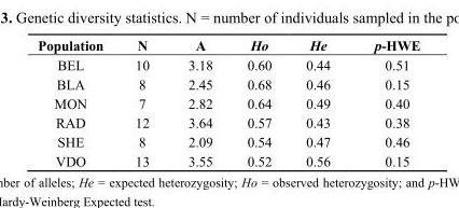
<table><thead><tr><td>Population</td><td>N</td><td>A</td><td>Ho</td><td>He</td><td>p-HWE</td></tr></thead><tbody><tr><td>BEL</td><td>10</td><td>3.18</td><td>0.60</td><td>0.44</td><td>0.51</td></tr><tr><td>BLA</td><td>8</td><td>2.45</td><td>0.68</td><td>0.46</td><td>0.15</td></tr><tr><td>MON</td><td>7</td><td>2.82</td><td>0.64</td><td>0.49</td><td>0.40</td></tr><tr><td>RAD</td><td>12</td><td>3.64</td><td>0.57</td><td>0.43</td><td>0.38</td></tr><tr><td>SHE</td><td>8</td><td>2.09</td><td>0.54</td><td>0.47</td><td>0.46</td></tr><tr><td>VDO</td><td>13</td><td>3.55</td><td>0.52</td><td>0.56</td><td>0.15</td></tr></tbody></table>